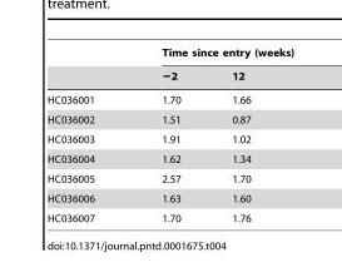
<table><thead><tr><td rowspan="2"></td><td colspan="2">Time since entry (weeks)</td></tr><tr><td>−2</td><td>12</td></tr></thead><tbody><tr><td>HC036001</td><td>1.70</td><td>1.66</td></tr><tr><td>HC036002</td><td>1.51</td><td>0.87</td></tr><tr><td>HC036003</td><td>1.91</td><td>1.02</td></tr><tr><td>HC036004</td><td>1.62</td><td>1.34</td></tr><tr><td>HC036005</td><td>2.57</td><td>1.70</td></tr><tr><td>HC036006</td><td>1.63</td><td>1.60</td></tr><tr><td>HC036007</td><td>1.70</td><td>1.76</td></tr></tbody></table>